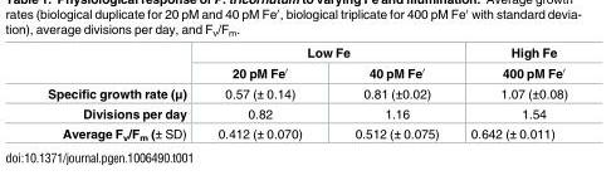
<table><thead><tr><td rowspan="2"></td><td colspan="2">Low Fe</td><td rowspan="2">High Fe 400 pM Fe′</td></tr><tr><td>20 pM Fe′</td><td>40 pM Fe′</td></tr></thead><tbody><tr><td>Specific growth rate (μ)</td><td>0.57 (± 0.14)</td><td>0.81 (±0.02)</td><td>1.07 (±0.08)</td></tr><tr><td>Divisions per day</td><td>0.82</td><td>1.16</td><td>1.54</td></tr><tr><td>Average F<sub>v</sub>/F<sub>m</sub> (± SD)</td><td>0.412 (± 0.070)</td><td>0.512 (± 0.075)</td><td>0.642 (± 0.011)</td></tr></tbody></table>